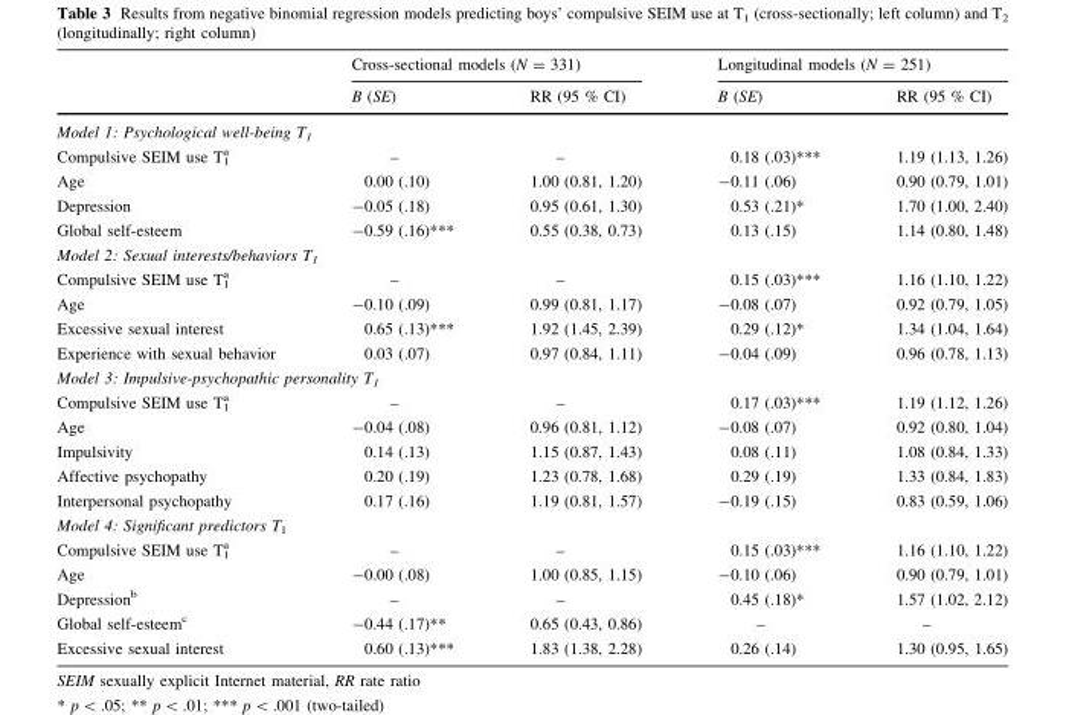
<table><thead><tr><td rowspan="2"></td><td colspan="2">Cross-sectional models (N = 331)</td><td colspan="2">Longitudinal models (N = 251)</td></tr><tr><td>B (SE)</td><td>RR (95 % CI)</td><td>B (SE)</td><td>RR (95 % CI)</td></tr></thead><tbody><tr><td colspan="5">Model 1: Psychological well-being T<sub>1</sub></td></tr><tr><td>Compulsive SEIM use T<sub>1</sub> <sup>a</sup></td><td>–</td><td>–</td><td>0.18 (.03)***</td><td>1.19 (1.13, 1.26)</td></tr><tr><td>Age</td><td>0.00 (.10)</td><td>1.00 (0.81, 1.20)</td><td>-0.11 (.06)</td><td>0.90 (0.79, 1.01)</td></tr><tr><td>Depression</td><td>-0.05 (.18)</td><td>0.95 (0.61, 1.30)</td><td>0.53 (.21)*</td><td>1.70 (1.00, 2.40)</td></tr><tr><td>Global self-esteem</td><td>-0.59 (.16)***</td><td>0.55 (0.38, 0.73)</td><td>0.13 (.15)</td><td>1.14 (0.80, 1.48)</td></tr><tr><td colspan="5">Model 2: Sexual interests/behaviors T<sub>1</sub></td></tr><tr><td>Compulsive SEIM use T<sub>1</sub> <sup>a</sup></td><td>–</td><td>–</td><td>0.15 (.03)***</td><td>1.16 (1.10, 1.22)</td></tr><tr><td>Age</td><td>-0.10 (.09)</td><td>0.99 (0.81, 1.17)</td><td>-0.08 (.07)</td><td>0.92 (0.79, 1.05)</td></tr><tr><td>Excessive sexual interest</td><td>0.65 (.13)***</td><td>1.92 (1.45, 2.39)</td><td>0.29 (.12)*</td><td>1.34 (1.04, 1.64)</td></tr><tr><td>Experience with sexual behavior</td><td>0.03 (.07)</td><td>0.97 (0.84, 1.11)</td><td>-0.04 (.09)</td><td>0.96 (0.78, 1.13)</td></tr><tr><td colspan="5">Model 3: Impulsive-psychopathic personality T<sub>1</sub></td></tr><tr><td>Compulsive SEIM use T<sub>1</sub> <sup>a</sup></td><td>–</td><td>–</td><td>0.17 (.03)***</td><td>1.19 (1.12, 1.26)</td></tr><tr><td>Age</td><td>-0.04 (.08)</td><td>0.96 (0.81, 1.12)</td><td>-0.08 (.07)</td><td>0.92 (0.80, 1.04)</td></tr><tr><td>Impulsivity</td><td>0.14 (.13)</td><td>1.15 (0.87, 1.43)</td><td>0.08 (.11)</td><td>1.08 (0.84, 1.33)</td></tr><tr><td>Affective psychopathy</td><td>0.20 (.19)</td><td>1.23 (0.78, 1.68)</td><td>0.29 (.19)</td><td>1.33 (0.84, 1.83)</td></tr><tr><td>Interpersonal psychopathy</td><td>0.17 (.16)</td><td>1.19 (0.81, 1.57)</td><td>-0.19 (.15)</td><td>0.83 (0.59, 1.06)</td></tr><tr><td colspan="5">Model 4: Significant predictors T<sub>1</sub></td></tr><tr><td>Compulsive SEIM use T<sub>1</sub> <sup>a</sup></td><td>–</td><td>–</td><td>0.15 (.03)***</td><td>1.16 (1.10, 1.22)</td></tr><tr><td>Age</td><td>-0.00 (.08)</td><td>1.00 (0.85, 1.15)</td><td>-0.10 (.06)</td><td>0.90 (0.79, 1.01)</td></tr><tr><td>Depression<sup>b</sup></td><td>–</td><td>–</td><td>0.45 (.18)*</td><td>1.57 (1.02, 2.12)</td></tr><tr><td>Global self-esteem<sup>c</sup></td><td>-0.44 (.17)**</td><td>0.65 (0.43, 0.86)</td><td>–</td><td>–</td></tr><tr><td>Excessive sexual interest</td><td>0.60 (.13)***</td><td>1.83 (1.38, 2.28)</td><td>0.26 (.14)</td><td>1.30 (0.95, 1.65)</td></tr></tbody></table>